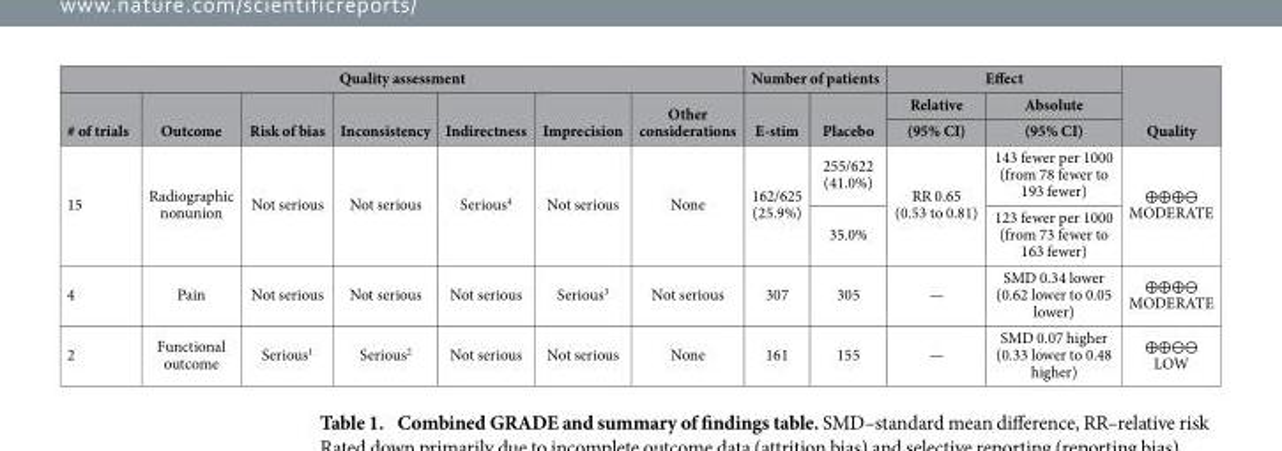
<table><thead><tr><td colspan="7">Quality assessment</td><td colspan="2">Number of patients</td><td colspan="2">Effect</td><td rowspan="3">Quality</td></tr><tr><td rowspan="2"># of trials</td><td rowspan="2">Outcome</td><td rowspan="2">Risk of bias</td><td rowspan="2">Inconsistency</td><td rowspan="2">Indirectness</td><td rowspan="2">Imprecision</td><td rowspan="2">Other considerations</td><td rowspan="2">E-stim</td><td rowspan="2">Placebo</td><td rowspan="2">Relative (95% CI)</td><td rowspan="2">Absolute (95% CI)</td></tr><tr></tr></thead><tbody><tr><td rowspan="2">15</td><td rowspan="2">Radiographic nonunion</td><td rowspan="2">Not serious</td><td rowspan="2">Not serious</td><td rowspan="2">Serious<sup>4</sup></td><td rowspan="2">Not serious</td><td rowspan="2">None</td><td rowspan="2">162/625 (25.9%)</td><td>255/622 (41.0%)</td><td rowspan="2">RR 0.65 (0.53 to 0.81)</td><td>143 fewer per 1000 (from 78 fewer to 193 fewer)</td><td rowspan="2">⊕ ⊕ ⊕⊖ MODERATE</td></tr><tr><td>35.0%</td><td>123 fewer per 1000 (from 73 fewer to 163 fewer)</td></tr><tr><td>4</td><td>Pain</td><td>Not serious</td><td>Not serious</td><td>Not serious</td><td>Serious<sup>3</sup></td><td>Not serious</td><td>307</td><td>305</td><td>—</td><td>SMD 0.34 lower (0.62 lower to 0.05 lower)</td><td>⊕ ⊕ ⊕ ⊖ MODERATE</td></tr><tr><td>2</td><td>Functional outcome</td><td>Serious<sup>1</sup></td><td>Serious<sup>2</sup></td><td>Not serious</td><td>Not serious</td><td>None</td><td>161</td><td>155</td><td>—</td><td>SMD 0.07 higher (0.33 lower to 0.48 higher)</td><td>⊕ ⊕⊖⊖ LOW</td></tr></tbody></table>